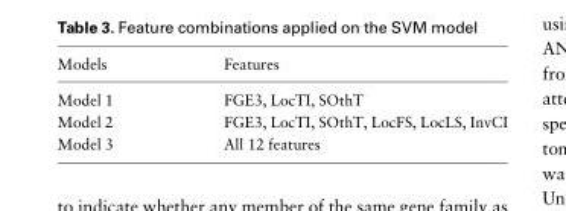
<table><thead><tr><td>Models</td><td>Features</td></tr></thead><tbody><tr><td>Model 1</td><td>FGE3, LocTI, SOthT</td></tr><tr><td>Model 2</td><td>FGE3, LocTI, SOthT, LocFS, LocLS, InvCI</td></tr><tr><td>Model 3</td><td>All 12 features</td></tr></tbody></table>